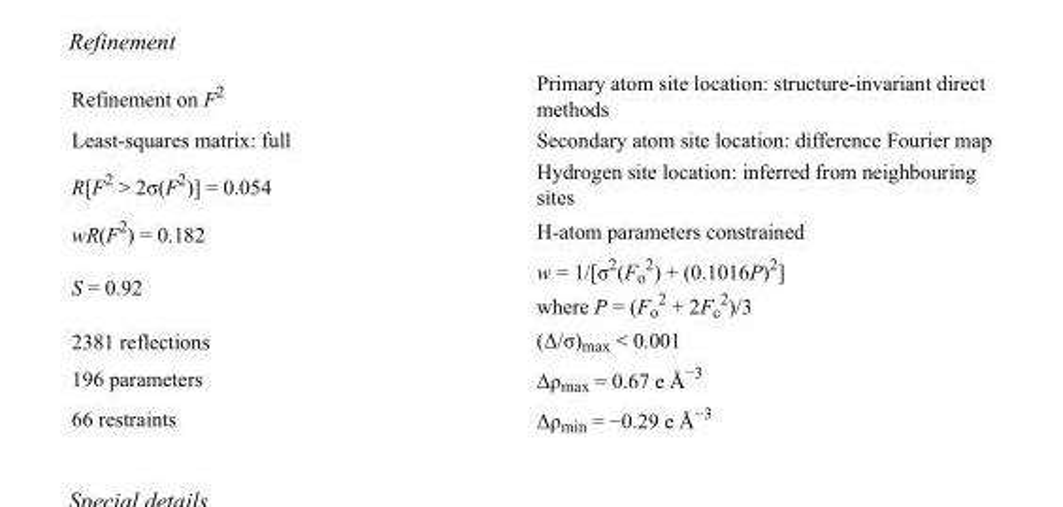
<table><tbody><tr><td>Refinement on F<sup>2</sup></td><td>Primary atom site location: structure-invariant direct methods</td></tr><tr><td>Least-squares matrix: full</td><td>Secondary atom site location: difference Fourier map</td></tr><tr><td>R[F<sup>2</sup> &gt; 2σ(F<sup>2</sup>)] = 0.054</td><td>Hydrogen site location: inferred from neighbouring sites</td></tr><tr><td>wR(F<sup>2</sup>) = 0.182</td><td>H-atom parameters constrained</td></tr><tr><td>S = 0.92</td><td>w = 1/[σ<sup>2</sup>(F<sub>o</sub> <sup>2</sup>) + (0.1016P)<sup>2</sup>] where P = (F<sub>o</sub> <sup>2</sup> + 2F<sub>c</sub> <sup>2</sup>)/3</td></tr><tr><td>2381 reflections</td><td>(Δ/σ)<sub>max</sub> &lt; 0.001</td></tr><tr><td>196 parameters</td><td>Δρ<sub>max</sub> = 0.67 e Å<sup>−3</sup></td></tr><tr><td>66 restraints</td><td>Δρ<sub>min</sub> = −0.29 e Å<sup>−3</sup></td></tr></tbody></table>